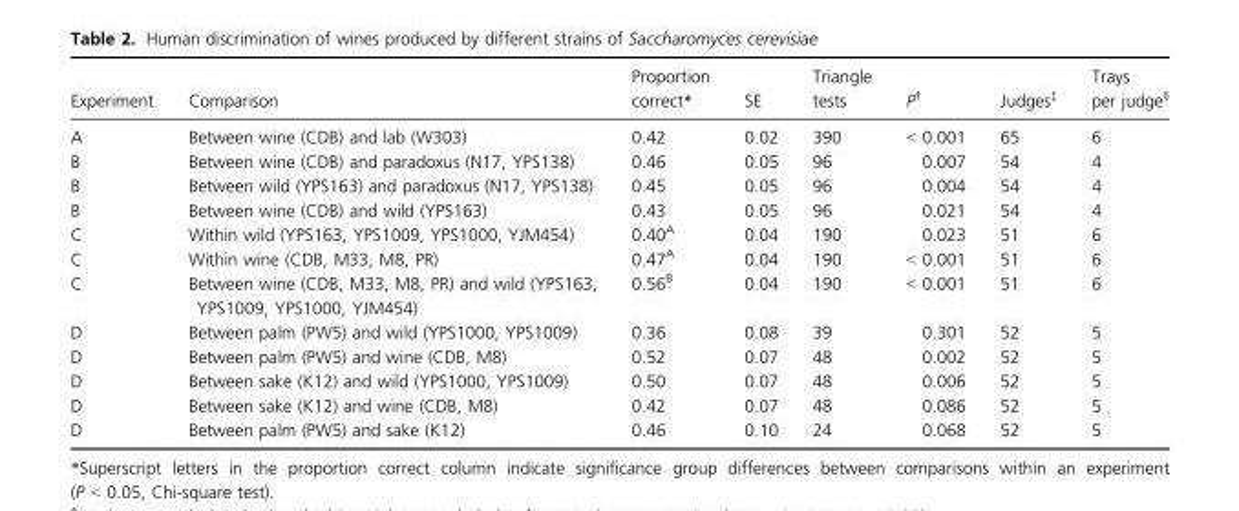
<table><thead><tr><td>Experiment</td><td>Comparison</td><td>Proportion correct*</td><td>SE</td><td>Triangle tests</td><td>P†</td><td>Judges‡</td><td>Trays per judge§</td></tr></thead><tbody><tr><td>A</td><td>Between wine (CDB) and lab (W303)</td><td>0.42</td><td>0.02</td><td>390</td><td>&lt; 0.001</td><td>65</td><td>6</td></tr><tr><td>B</td><td>Between wine (CDB) and paradoxus (N17, YPS138)</td><td>0.46</td><td>0.05</td><td>96</td><td>0.007</td><td>54</td><td>4</td></tr><tr><td>B</td><td>Between wild (YPS163) and paradoxus (N17, YPS138)</td><td>0.45</td><td>0.05</td><td>96</td><td>0.004</td><td>54</td><td>4</td></tr><tr><td>B</td><td>Between wine (CDB) and wild (YPS163)</td><td>0.43</td><td>0.05</td><td>96</td><td>0.021</td><td>54</td><td>4</td></tr><tr><td>C</td><td>Within wild (YPS163, YPS1009, YPS1000, YJM454)</td><td>0.40<sup>A</sup></td><td>0.04</td><td>190</td><td>0.023</td><td>51</td><td>6</td></tr><tr><td>C</td><td>Within wine (CDB, M33, M8, PR)</td><td>0.47<sup>A</sup></td><td>0.04</td><td>190</td><td>&lt; 0.001</td><td>51</td><td>6</td></tr><tr><td>C</td><td>Between wine (CDB, M33, M8, PR) and wild (YPS163, YPS1009, YPS1000, YJM454)</td><td>0.56<sup>B</sup></td><td>0.04</td><td>190</td><td>&lt; 0.001</td><td>51</td><td>6</td></tr><tr><td>D</td><td>Between palm (PW5) and wild (YPS1000, YPS1009)</td><td>0.36</td><td>0.08</td><td>39</td><td>0.301</td><td>52</td><td>5</td></tr><tr><td>D</td><td>Between palm (PW5) and wine (CDB, M8)</td><td>0.52</td><td>0.07</td><td>48</td><td>0.002</td><td>52</td><td>5</td></tr><tr><td>D</td><td>Between sake (K12) and wild (YPS1000, YPS1009)</td><td>0.50</td><td>0.07</td><td>48</td><td>0.006</td><td>52</td><td>5</td></tr><tr><td>D</td><td>Between sake (K12) and wine (CDB, M8)</td><td>0.42</td><td>0.07</td><td>48</td><td>0.086</td><td>52</td><td>5</td></tr><tr><td>D</td><td>Between palm (PW5) and sake (K12)</td><td>0.46</td><td>0.10</td><td>24</td><td>0.068</td><td>52</td><td>5</td></tr></tbody></table>